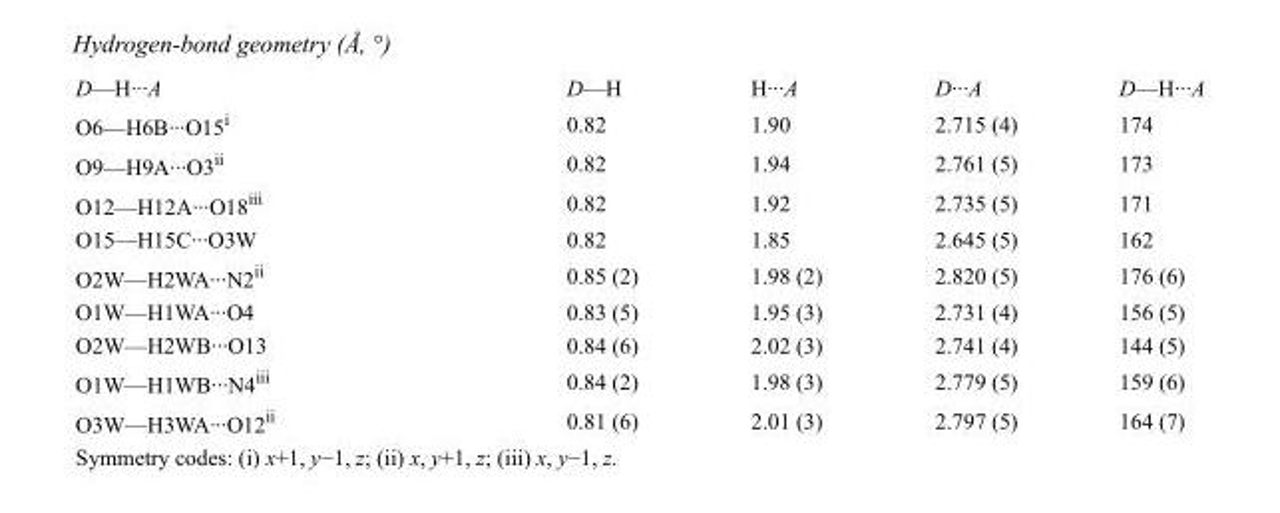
<table><tbody><tr><td>D—H···A</td><td>D—H</td><td>H···A</td><td>D···A</td><td>D—H···A</td></tr><tr><td>O6—H6B···O15<sup>i</sup></td><td>0.82</td><td>1.90</td><td>2.715 (4)</td><td>174</td></tr><tr><td>O9—H9A···O3<sup>ii</sup></td><td>0.82</td><td>1.94</td><td>2.761 (5)</td><td>173</td></tr><tr><td>O12—H12A···O18<sup>iii</sup></td><td>0.82</td><td>1.92</td><td>2.735 (5)</td><td>171</td></tr><tr><td>O15—H15C···O3W</td><td>0.82</td><td>1.85</td><td>2.645 (5)</td><td>162</td></tr><tr><td>O2W—H2WA···N2<sup>ii</sup></td><td>0.85 (2)</td><td>1.98 (2)</td><td>2.820 (5)</td><td>176 (6)</td></tr><tr><td>O1W—H1WA···O4</td><td>0.83 (5)</td><td>1.95 (3)</td><td>2.731 (4)</td><td>156 (5)</td></tr><tr><td>O2W—H2WB···O13</td><td>0.84 (6)</td><td>2.02 (3)</td><td>2.741 (4)</td><td>144 (5)</td></tr><tr><td>O1W—H1WB···N4<sup>iii</sup></td><td>0.84 (2)</td><td>1.98 (3)</td><td>2.779 (5)</td><td>159 (6)</td></tr><tr><td>O3W—H3WA···O12<sup>ii</sup></td><td>0.81 (6)</td><td>2.01 (3)</td><td>2.797 (5)</td><td>164 (7)</td></tr></tbody></table>